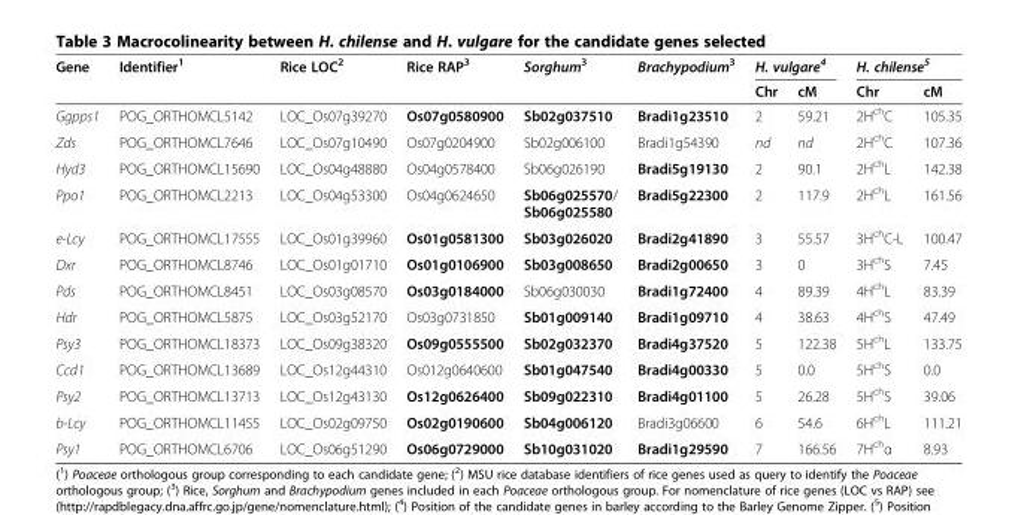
<table><thead><tr><td rowspan="2">Gene</td><td rowspan="2">Identifier<sup>1</sup></td><td rowspan="2">Rice LOC<sup>2</sup></td><td rowspan="2">Rice RAP<sup>3</sup></td><td rowspan="2">Sorghum<sup>3</sup></td><td rowspan="2">Brachypodium<sup>3</sup></td><td colspan="2">H. vulgare<sup>4</sup></td><td colspan="2">H. chilense<sup>5</sup></td></tr><tr><td>Chr</td><td>cM</td><td>Chr</td><td>cM</td></tr></thead><tbody><tr><td>Ggpps1</td><td>POG_ORTHOMCL5142</td><td>LOC_Os07g39270</td><td>Os07g0580900</td><td>Sb02g037510</td><td>Bradi1g23510</td><td>2</td><td>59.21</td><td>2H<sup>ch</sup>C</td><td>105.35</td></tr><tr><td>Zds</td><td>POG_ORTHOMCL7646</td><td>LOC_Os07g10490</td><td>Os07g0204900</td><td>Sb02g006100</td><td>Bradi1g54390</td><td>nd</td><td>nd</td><td>2H<sup>ch</sup>C</td><td>107.36</td></tr><tr><td>Hyd3</td><td>POG_ORTHOMCL15690</td><td>LOC_Os04g48880</td><td>Os04g0578400</td><td>Sb06g026190</td><td>Bradi5g19130</td><td>2</td><td>90.1</td><td>2H<sup>ch</sup>L</td><td>142.38</td></tr><tr><td>Ppo1</td><td>POG_ORTHOMCL2213</td><td>LOC_Os04g53300</td><td>Os04g0624650</td><td>Sb06g025570/ Sb06g025580</td><td>Bradi5g22300</td><td>2</td><td>117.9</td><td>2H<sup>ch</sup>L</td><td>161.56</td></tr><tr><td>e-Lcy</td><td>POG_ORTHOMCL17555</td><td>LOC_Os01g39960</td><td>Os01g0581300</td><td>Sb03g026020</td><td>Bradi2g41890</td><td>3</td><td>55.57</td><td>3H<sup>ch</sup>C-L</td><td>100.47</td></tr><tr><td>Dxr</td><td>POG_ORTHOMCL8746</td><td>LOC_Os01g01710</td><td>Os01g0106900</td><td>Sb03g008650</td><td>Bradi2g00650</td><td>3</td><td>0</td><td>3H<sup>ch</sup>S</td><td>7.45</td></tr><tr><td>Pds</td><td>POG_ORTHOMCL8451</td><td>LOC_Os03g08570</td><td>Os03g0184000</td><td>Sb06g030030</td><td>Bradi1g72400</td><td>4</td><td>89.39</td><td>4H<sup>ch</sup>L</td><td>83.39</td></tr><tr><td>Hdr</td><td>POG_ORTHOMCL5875</td><td>LOC_Os03g52170</td><td>Os03g0731850</td><td>Sb01g009140</td><td>Bradi1g09710</td><td>4</td><td>38.63</td><td>4H<sup>ch</sup>S</td><td>47.49</td></tr><tr><td>Psy3</td><td>POG_ORTHOMCL18373</td><td>LOC_Os09g38320</td><td>Os09g0555500</td><td>Sb02g032370</td><td>Bradi4g37520</td><td>5</td><td>122.38</td><td>5H<sup>ch</sup>L</td><td>133.75</td></tr><tr><td>Ccd1</td><td>POG_ORTHOMCL13689</td><td>LOC_Os12g44310</td><td>Os012g0640600</td><td>Sb01g047540</td><td>Bradi4g00330</td><td>5</td><td>0.0</td><td>5H<sup>ch</sup>S</td><td>0.0</td></tr><tr><td>Psy2</td><td>POG_ORTHOMCL13713</td><td>LOC_Os12g43130</td><td>Os12g0626400</td><td>Sb09g022310</td><td>Bradi4g01100</td><td>5</td><td>26.28</td><td>5H<sup>ch</sup>S</td><td>39.06</td></tr><tr><td>b-Lcy</td><td>POG_ORTHOMCL11455</td><td>LOC_Os02g09750</td><td>Os02g0190600</td><td>Sb04g006120</td><td>Bradi3g06600</td><td>6</td><td>54.6</td><td>6H<sup>ch</sup>L</td><td>111.21</td></tr><tr><td>Psy1</td><td>POG_ORTHOMCL6706</td><td>LOC_Os06g51290</td><td>Os06g0729000</td><td>Sb10g031020</td><td>Bradi1g29590</td><td>7</td><td>166.56</td><td>7H<sup>ch</sup>α</td><td>8.93</td></tr></tbody></table>